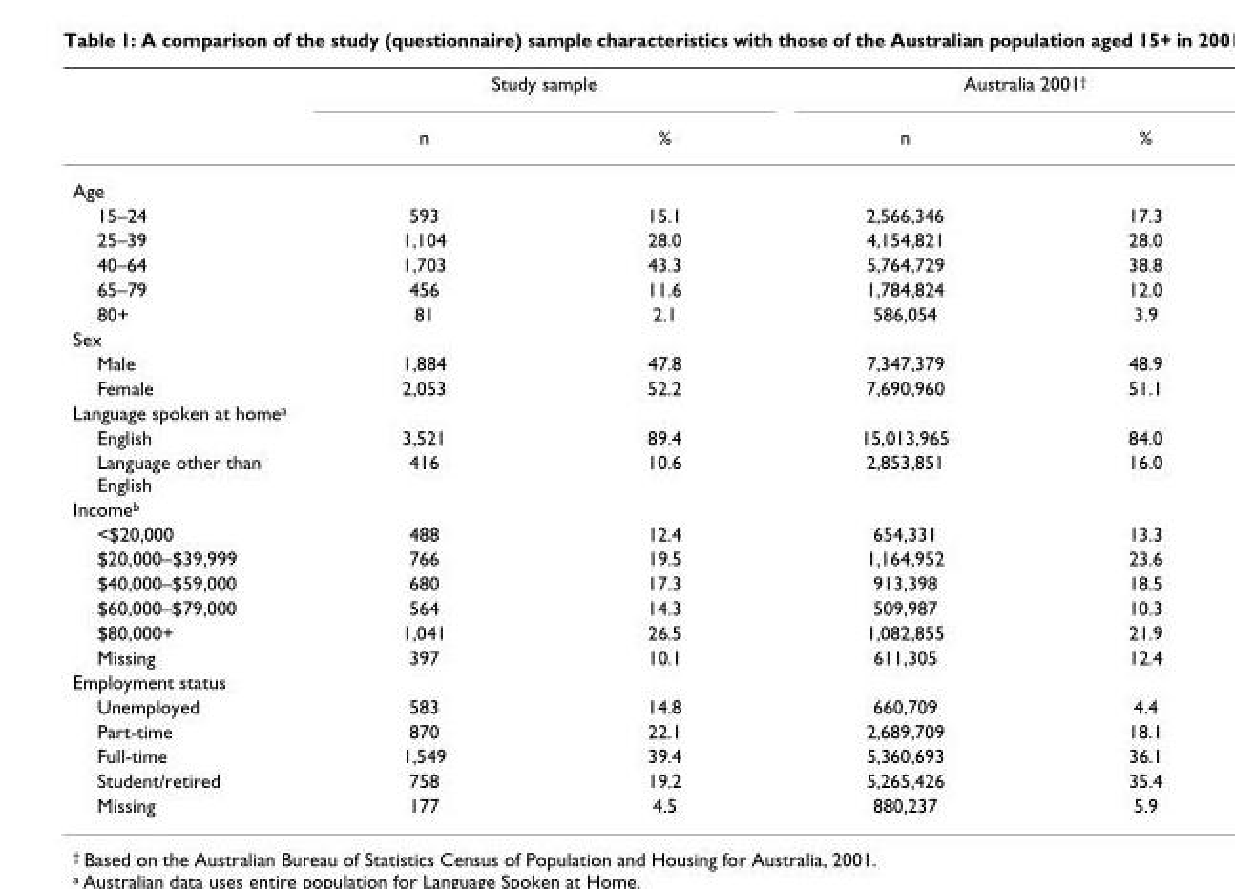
<table><thead><tr><td rowspan="2"></td><td colspan="2">Study sample</td><td colspan="2">Australia 2001<sup>†</sup></td></tr><tr><td>n</td><td>%</td><td>n</td><td>%</td></tr></thead><tbody><tr><td colspan="5">Age</td></tr><tr><td>15–24</td><td>593</td><td>15.1</td><td>2,566,346</td><td>17.3</td></tr><tr><td>25–39</td><td>1,104</td><td>28.0</td><td>4,154,821</td><td>28.0</td></tr><tr><td>40–64</td><td>1,703</td><td>43.3</td><td>5,764,729</td><td>38.8</td></tr><tr><td>65–79</td><td>456</td><td>11.6</td><td>1,784,824</td><td>12.0</td></tr><tr><td>80+</td><td>81</td><td>2.1</td><td>586,054</td><td>3.9</td></tr><tr><td colspan="5">Sex</td></tr><tr><td>Male</td><td>1,884</td><td>47.8</td><td>7,347,379</td><td>48.9</td></tr><tr><td>Female</td><td>2,053</td><td>52.2</td><td>7,690,960</td><td>51.1</td></tr><tr><td colspan="5">Language spoken at home<sup>a</sup></td></tr><tr><td>English</td><td>3,521</td><td>89.4</td><td>15,013,965</td><td>84.0</td></tr><tr><td>Language other than English</td><td>416</td><td>10.6</td><td>2,853,851</td><td>16.0</td></tr><tr><td colspan="5">Income<sup>b</sup></td></tr><tr><td>&lt;$20,000</td><td>488</td><td>12.4</td><td>654,331</td><td>13.3</td></tr><tr><td>$20,000–$39,999</td><td>766</td><td>19.5</td><td>1,164,952</td><td>23.6</td></tr><tr><td>$40,000–$59,000</td><td>680</td><td>17.3</td><td>913,398</td><td>18.5</td></tr><tr><td>$60,000–$79,000</td><td>564</td><td>14.3</td><td>509,987</td><td>10.3</td></tr><tr><td>$80,000+</td><td>1,041</td><td>26.5</td><td>1,082,855</td><td>21.9</td></tr><tr><td>Missing</td><td>397</td><td>10.1</td><td>611,305</td><td>12.4</td></tr><tr><td colspan="5">Employment status</td></tr><tr><td>Unemployed</td><td>583</td><td>14.8</td><td>660,709</td><td>4.4</td></tr><tr><td>Part-time</td><td>870</td><td>22.1</td><td>2,689,709</td><td>18.1</td></tr><tr><td>Full-time</td><td>1,549</td><td>39.4</td><td>5,360,693</td><td>36.1</td></tr><tr><td>Student/retired</td><td>758</td><td>19.2</td><td>5,265,426</td><td>35.4</td></tr><tr><td>Missing</td><td>177</td><td>4.5</td><td>880,237</td><td>5.9</td></tr></tbody></table>